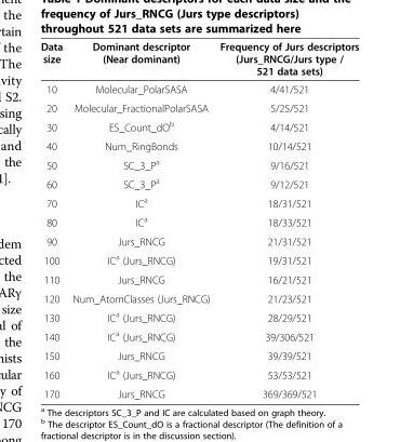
<table><thead><tr><td>Data size</td><td>Dominant descriptor (Near dominant)</td><td>Frequency of Jurs descriptors (Jurs_RNCG/Jurs type / 521 data sets)</td></tr></thead><tbody><tr><td>10</td><td>Molecular_PolarSASA</td><td>4/41/521</td></tr><tr><td>20</td><td>Molecular_FractionalPolarSASA</td><td>5/25/521</td></tr><tr><td>30</td><td>ES_Count_dO<sup>b</sup></td><td>4/14/521</td></tr><tr><td>40</td><td>Num_RingBonds</td><td>10/14/521</td></tr><tr><td>50</td><td>SC_3_P<sup>a</sup></td><td>9/16/521</td></tr><tr><td>60</td><td>SC_3_P<sup>a</sup></td><td>9/12/521</td></tr><tr><td>70</td><td>IC<sup>a</sup></td><td>18/31/521</td></tr><tr><td>80</td><td>IC<sup>a</sup></td><td>18/33/521</td></tr><tr><td>90</td><td>Jurs_RNCG</td><td>21/31/521</td></tr><tr><td>100</td><td>IC<sup>a</sup> (Jurs_RNCG)</td><td>19/31/521</td></tr><tr><td>110</td><td>Jurs_RNCG</td><td>16/21/521</td></tr><tr><td>120</td><td>Num_AtomClasses (Jurs_RNCG)</td><td>21/23/521</td></tr><tr><td>130</td><td>IC<sup>a</sup> (Jurs_RNCG)</td><td>28/29/521</td></tr><tr><td>140</td><td>IC<sup>a</sup> (Jurs_RNCG)</td><td>39/306/521</td></tr><tr><td>150</td><td>Jurs_RNCG</td><td>39/39/521</td></tr><tr><td>160</td><td>IC<sup>a</sup> (Jurs_RNCG)</td><td>53/53/521</td></tr><tr><td>170</td><td>Jurs_RNCG</td><td>369/369/521</td></tr></tbody></table>